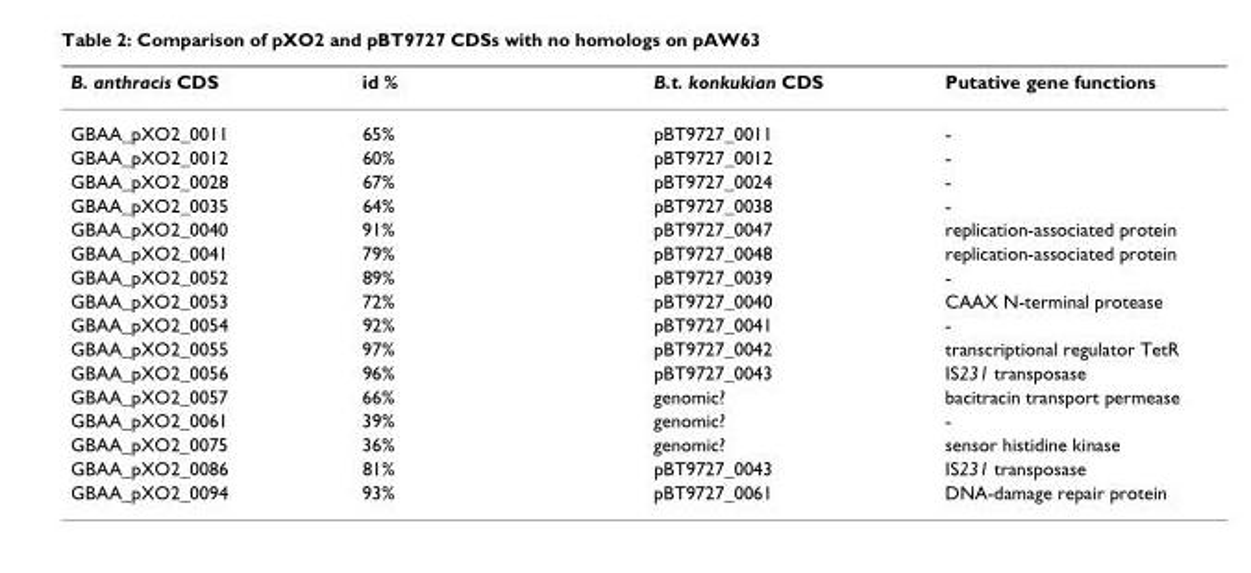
<table><thead><tr><td>B. anthracis CDS</td><td>id %</td><td>B.t. konkukian CDS</td><td>Putative gene functions</td></tr></thead><tbody><tr><td>GBAA_pXO2_0011</td><td>65%</td><td>pBT9727_0011</td><td>-</td></tr><tr><td>GBAA_pXO2_0012</td><td>60%</td><td>pBT9727_0012</td><td>-</td></tr><tr><td>GBAA_pXO2_0028</td><td>67%</td><td>pBT9727_0024</td><td>-</td></tr><tr><td>GBAA_pXO2_0035</td><td>64%</td><td>pBT9727_0038</td><td>-</td></tr><tr><td>GBAA_pXO2_0040</td><td>91%</td><td>pBT9727_0047</td><td>replication-associated protein</td></tr><tr><td>GBAA_pXO2_0041</td><td>79%</td><td>pBT9727_0048</td><td>replication-associated protein</td></tr><tr><td>GBAA_pXO2_0052</td><td>89%</td><td>pBT9727_0039</td><td>-</td></tr><tr><td>GBAA_pXO2_0053</td><td>72%</td><td>pBT9727_0040</td><td>CAAX N-terminal protease</td></tr><tr><td>GBAA_pXO2_0054</td><td>92%</td><td>pBT9727_0041</td><td>-</td></tr><tr><td>GBAA_pXO2_0055</td><td>97%</td><td>pBT9727_0042</td><td>transcriptional regulator TetR</td></tr><tr><td>GBAA_pXO2_0056</td><td>96%</td><td>pBT9727_0043</td><td>IS231 transposase</td></tr><tr><td>GBAA_pXO2_0057</td><td>66%</td><td>genomic?</td><td>bacitracin transport permease</td></tr><tr><td>GBAA_pXO2_0061</td><td>39%</td><td>genomic?</td><td>-</td></tr><tr><td>GBAA_pXO2_0075</td><td>36%</td><td>genomic?</td><td>sensor histidine kinase</td></tr><tr><td>GBAA_pXO2_0086</td><td>81%</td><td>pBT9727_0043</td><td>IS231 transposase</td></tr><tr><td>GBAA_pXO2_0094</td><td>93%</td><td>pBT9727_0061</td><td>DNA-damage repair protein</td></tr></tbody></table>